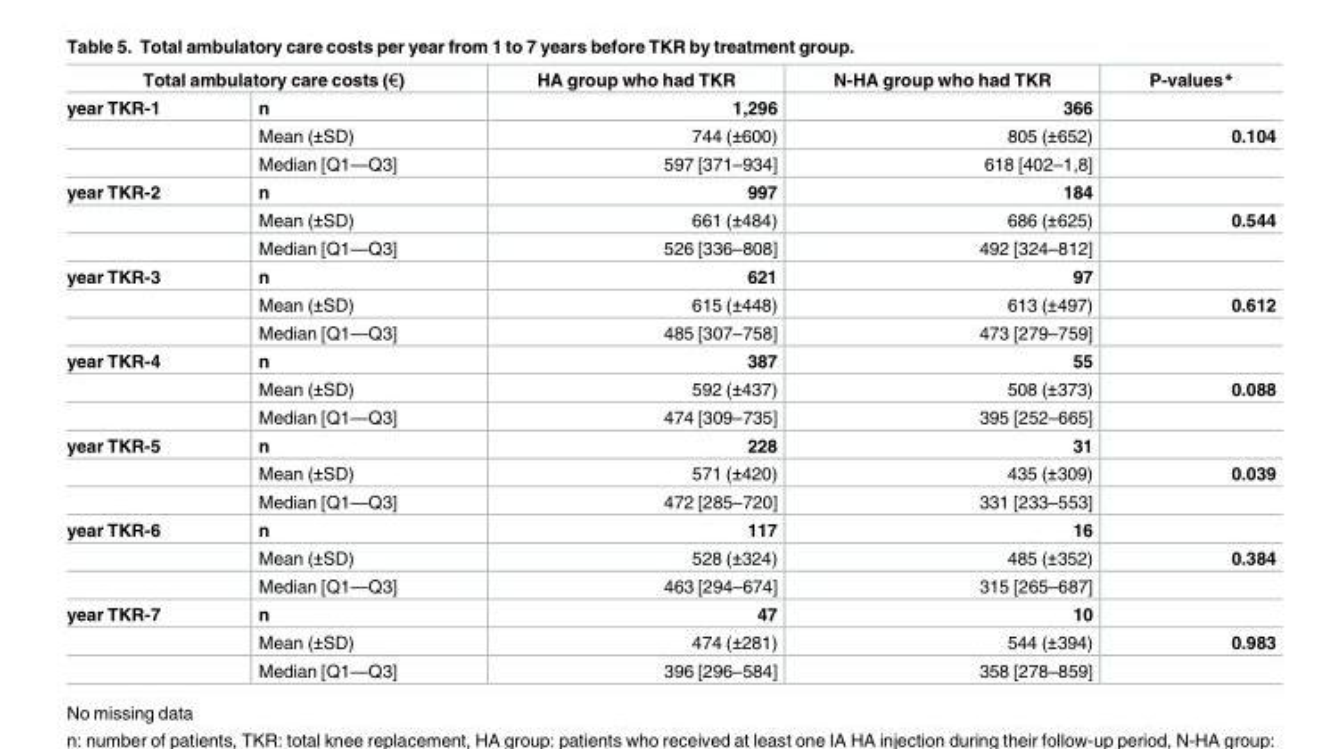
<table><thead><tr><td colspan="2">Total ambulatory care costs (€)</td><td rowspan="2">HA group who had TKR 1,296</td><td rowspan="2">N-HA group who had TKR 366</td><td rowspan="2">P-values*</td></tr><tr><td>year TKR-1</td><td>n</td></tr></thead><tbody><tr><td></td><td>Mean (±SD)</td><td>744 (±600)</td><td>805 (±652)</td><td>0.104</td></tr><tr><td></td><td>Median [Q1—Q3]</td><td>597 [371–934]</td><td>618 [402–1,8]</td><td></td></tr><tr><td rowspan="3">year TKR-2</td><td>n</td><td>997</td><td>184</td><td></td></tr><tr><td>Mean (±SD)</td><td>661 (±484)</td><td>686 (±625)</td><td>0.544</td></tr><tr><td>Median [Q1—Q3]</td><td>526 [336–808]</td><td>492 [324–812]</td><td></td></tr><tr><td rowspan="3">year TKR-3</td><td>n</td><td>621</td><td>97</td><td></td></tr><tr><td>Mean (±SD)</td><td>615 (±448)</td><td>613 (±497)</td><td>0.612</td></tr><tr><td>Median [Q1—Q3]</td><td>485 [307–758]</td><td>473 [279–759]</td><td></td></tr><tr><td rowspan="3">year TKR-4</td><td>n</td><td>387</td><td>55</td><td></td></tr><tr><td>Mean (±SD)</td><td>592 (±437)</td><td>508 (±373)</td><td>0.088</td></tr><tr><td>Median [Q1—Q3]</td><td>474 [309–735]</td><td>395 [252–665]</td><td></td></tr><tr><td rowspan="3">year TKR-5</td><td>n</td><td>228</td><td>31</td><td></td></tr><tr><td>Mean (±SD)</td><td>571 (±420)</td><td>435 (±309)</td><td>0.039</td></tr><tr><td>Median [Q1—Q3]</td><td>472 [285–720]</td><td>331 [233–553]</td><td></td></tr><tr><td rowspan="3">year TKR-6</td><td>n</td><td>117</td><td>16</td><td></td></tr><tr><td>Mean (±SD)</td><td>528 (±324)</td><td>485 (±352)</td><td>0.384</td></tr><tr><td>Median [Q1—Q3]</td><td>463 [294–674]</td><td>315 [265–687]</td><td></td></tr><tr><td rowspan="3">year TKR-7</td><td>n</td><td>47</td><td>10</td><td></td></tr><tr><td>Mean (±SD)</td><td>474 (±281)</td><td>544 (±394)</td><td>0.983</td></tr><tr><td>Median [Q1—Q3]</td><td>396 [296–584]</td><td>358 [278–859]</td><td></td></tr></tbody></table>